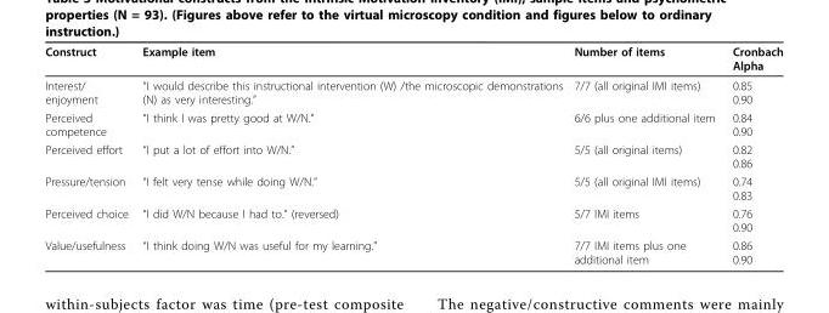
<table><thead><tr><td>Construct</td><td>Example item</td><td>Number of items</td><td>Cronbach Alpha</td></tr></thead><tbody><tr><td>Interest/ enjoyment</td><td>“I would describe this instructional intervention (W) /the microscopic demonstrations (N) as very interesting.”</td><td>7/7 (all original IMI items)</td><td>0.85 0.90</td></tr><tr><td>Perceived competence</td><td>“I think I was pretty good at W/N.”</td><td>6/6 plus one additional item</td><td>0.84 0.90</td></tr><tr><td>Perceived effort</td><td>“I put a lot of effort into W/N.”</td><td>5/5 (all original items)</td><td>0.82 0.86</td></tr><tr><td>Pressure/tension</td><td>“I felt very tense while doing W/N.”</td><td>5/5 (all original IMI items)</td><td>0.74 0.83</td></tr><tr><td>Perceived choice</td><td>“I did W/N because I had to.” (reversed)</td><td>5/7 IMI items</td><td>0.76 0.90</td></tr><tr><td>Value/usefulness</td><td>“I think doing W/N was useful for my learning.”</td><td>7/7 IMI items plus one additional item</td><td>0.86 0.90</td></tr></tbody></table>